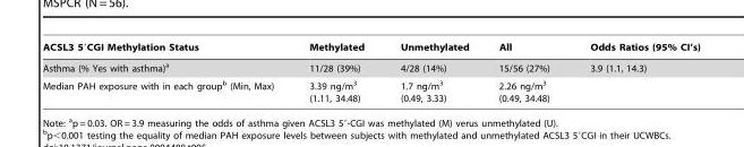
<table><thead><tr><td>ACSL3 5′CGI Methylation Status</td><td>Methylated</td><td>Unmethylated</td><td>All</td><td>Odds Ratios (95% CI’s)</td></tr></thead><tbody><tr><td>Asthma (% Yes with asthma)<sup>a</sup></td><td>11/28 (39%)</td><td>4/28 (14%)</td><td>15/56 (27%)</td><td>3.9 (1.1, 14.3)</td></tr><tr><td>Median PAH exposure with in each group<sup>b</sup> (Min, Max)</td><td>3.39 ng/m<sup>3</sup> (1.11, 34.48)</td><td>1.7 ng/m<sup>3</sup> (0.49, 3.33)</td><td>2.26 ng/m<sup>3</sup> (0.49, 34.48)</td><td></td></tr></tbody></table>